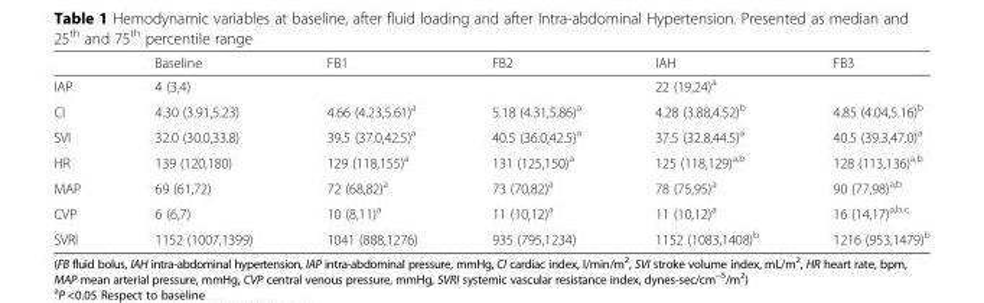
<table><thead><tr><td></td><td>Baseline</td><td>FB1</td><td>FB2</td><td>IAH</td><td>FB3</td></tr></thead><tbody><tr><td>IAP</td><td>4 (3,4)</td><td></td><td></td><td>22 (19,24)<sup>a</sup></td><td></td></tr><tr><td>CI</td><td>4.30 (3.91,5.23)</td><td>4.66 (4.23,5.61)<sup>a</sup></td><td>5.18 (4.31,5.86)<sup>a</sup></td><td>4.28 (3.88,4.52)<sup>b</sup></td><td>4.85 (4.04,5.16)<sup>b</sup></td></tr><tr><td>SVI</td><td>32.0 (30.0,33.8)</td><td>39.5 (37.0,42.5)<sup>a</sup></td><td>40.5 (36.0,42.5)<sup>a</sup></td><td>37.5 (32.8,44.5)<sup>a</sup></td><td>40.5 (39.3,47.0)<sup>a</sup></td></tr><tr><td>HR</td><td>139 (120,180)</td><td>129 (118,155)<sup>a</sup></td><td>131 (125,150)<sup>a</sup></td><td>125 (118,129)<sup>a,b</sup></td><td>128 (113,136)<sup>a,b</sup></td></tr><tr><td>MAP</td><td>69 (61,72)</td><td>72 (68,82)<sup>a</sup></td><td>73 (70,82)<sup>a</sup></td><td>78 (75,95)<sup>a</sup></td><td>90 (77,98)<sup>a,b</sup></td></tr><tr><td>CVP</td><td>6 (6,7)</td><td>10 (8,11)<sup>a</sup></td><td>11 (10,12)<sup>a</sup></td><td>11 (10,12)<sup>a</sup></td><td>16 (14,17)<sup>a,b,c</sup></td></tr><tr><td>SVRI</td><td>1152 (1007,1399)</td><td>1041 (888,1276)</td><td>935 (795,1234)</td><td>1152 (1083,1408)<sup>b</sup></td><td>1216 (953,1479)<sup>b</sup></td></tr></tbody></table>